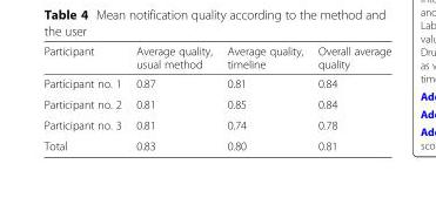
<table><thead><tr><td>Participant</td><td>Average quality, usual method</td><td>Average quality, timeline</td><td>Overall average quality</td></tr></thead><tbody><tr><td>Participant no. 1</td><td>0.87</td><td>0.81</td><td>0.84</td></tr><tr><td>Participant no. 2</td><td>0.81</td><td>0.85</td><td>0.84</td></tr><tr><td>Participant no. 3</td><td>0.81</td><td>0.74</td><td>0.78</td></tr><tr><td>Total</td><td>0.83</td><td>0.80</td><td>0.81</td></tr></tbody></table>